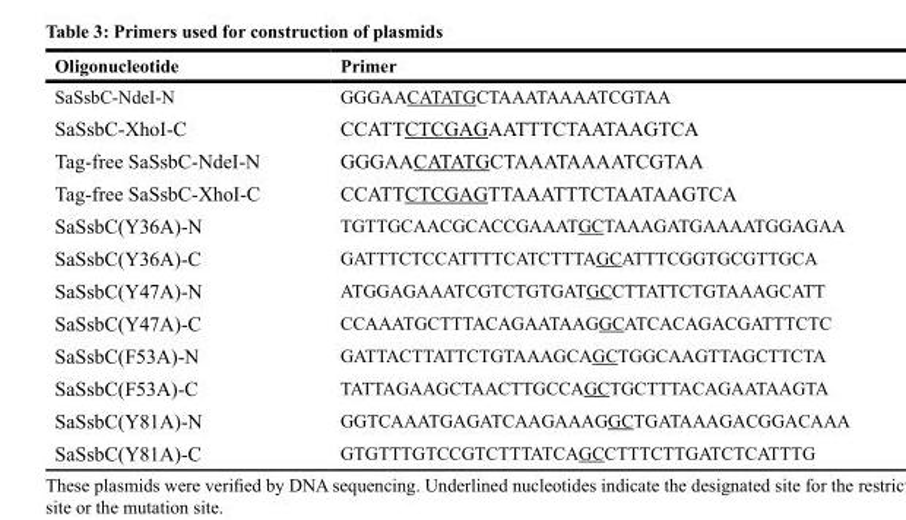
<table><thead><tr><td>Oligonucleotide</td><td>Primer</td></tr></thead><tbody><tr><td>SaSsbC-NdeI-N</td><td>GGGAACATATGCTAAATAAAATCGTAA</td></tr><tr><td>SaSsbC-XhoI-C</td><td>CCATTCTCGAGAATTTCTAATAAGTCA</td></tr><tr><td>Tag-free SaSsbC-NdeI-N</td><td>GGGAACATATGCTAAATAAAATCGTAA</td></tr><tr><td>Tag-free SaSsbC-XhoI-C</td><td>CCATTCTCGAGTTAAATTTCTAATAAGTCA</td></tr><tr><td>SaSsbC(Y36A)-N</td><td>TGTTGCAACGCACCGAAATGCTAAAGATGAAAATGGAGAA</td></tr><tr><td>SaSsbC(Y36A)-C</td><td>GATTTCTCCATTTTCATCTTTAGCATTTCGGTGCGTTGCA</td></tr><tr><td>SaSsbC(Y47A)-N</td><td>ATGGAGAAATCGTCTGTGATGCCTTATTCTGTAAAGCATT</td></tr><tr><td>SaSsbC(Y47A)-C</td><td>CCAAATGCTTTACAGAATAAGGCATCACAGACGATTTCTC</td></tr><tr><td>SaSsbC(F53A)-N</td><td>GATTACTTATTCTGTAAAGCAGCTGGCAAGTTAGCTTCTA</td></tr><tr><td>SaSsbC(F53A)-C</td><td>TATTAGAAGCTAACTTGCCAGCTGCTTTACAGAATAAGTA</td></tr><tr><td>SaSsbC(Y81A)-N</td><td>GGTCAAATGAGATCAAGAAAGGCTGATAAAGACGGACAAA</td></tr><tr><td>SaSsbC(Y81A)-C</td><td>GTGTTTGTCCGTCTTTATCAGCCTTTCTTGATCTCATTTG</td></tr></tbody></table>